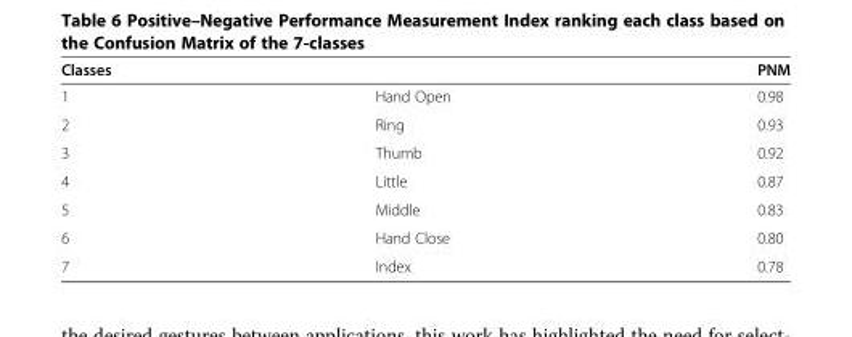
<table><thead><tr><td colspan="2">Classes</td><td rowspan="2">PNM 0.98</td></tr><tr><td>1</td><td>Hand Open</td></tr></thead><tbody><tr><td>2</td><td>Ring</td><td>0.93</td></tr><tr><td>3</td><td>Thumb</td><td>0.92</td></tr><tr><td>4</td><td>Little</td><td>0.87</td></tr><tr><td>5</td><td>Middle</td><td>0.83</td></tr><tr><td>6</td><td>Hand Close</td><td>0.80</td></tr><tr><td>7</td><td>Index</td><td>0.78</td></tr></tbody></table>